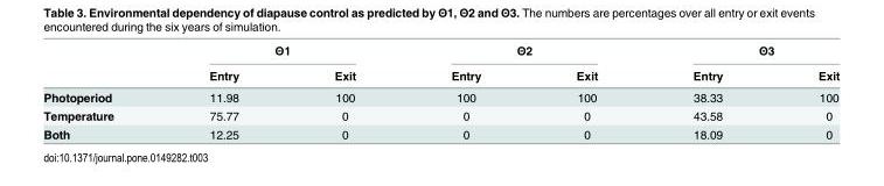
<table><thead><tr><td rowspan="2"></td><td colspan="2">Θ1</td><td colspan="2">Θ2</td><td colspan="2">Θ3</td></tr><tr><td>Entry</td><td>Exit</td><td>Entry</td><td>Exit</td><td>Entry</td><td>Exit</td></tr></thead><tbody><tr><td>Photoperiod</td><td>11.98</td><td>100</td><td>100</td><td>100</td><td>38.33</td><td>100</td></tr><tr><td>Temperature</td><td>75.77</td><td>0</td><td>0</td><td>0</td><td>43.58</td><td>0</td></tr><tr><td>Both</td><td>12.25</td><td>0</td><td>0</td><td>0</td><td>18.09</td><td>0</td></tr></tbody></table>